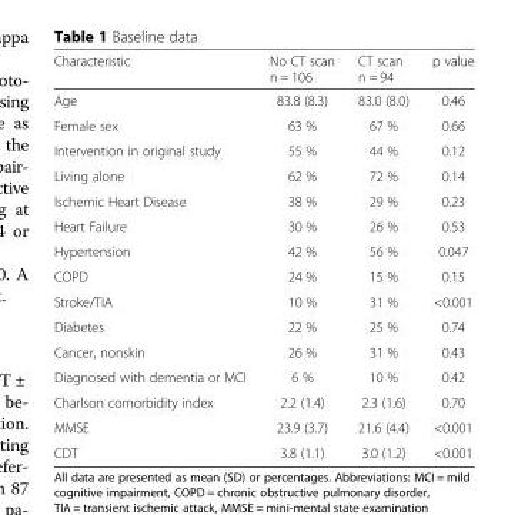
<table><thead><tr><td>Characteristic</td><td>No CT scan n = 106</td><td>CT scan n = 94</td><td>p value</td></tr></thead><tbody><tr><td>Age</td><td>83.8 (8.3)</td><td>83.0 (8.0)</td><td>0.46</td></tr><tr><td>Female sex</td><td>63 %</td><td>67 %</td><td>0.66</td></tr><tr><td>Intervention in original study</td><td>55 %</td><td>44 %</td><td>0.12</td></tr><tr><td>Living alone</td><td>62 %</td><td>72 %</td><td>0.14</td></tr><tr><td>Ischemic Heart Disease</td><td>38 %</td><td>29 %</td><td>0.23</td></tr><tr><td>Heart Failure</td><td>30 %</td><td>26 %</td><td>0.53</td></tr><tr><td>Hypertension</td><td>42 %</td><td>56 %</td><td>0.047</td></tr><tr><td>COPD</td><td>24 %</td><td>15 %</td><td>0.15</td></tr><tr><td>Stroke/TIA</td><td>10 %</td><td>31 %</td><td>&lt;0.001</td></tr><tr><td>Diabetes</td><td>22 %</td><td>25 %</td><td>0.74</td></tr><tr><td>Cancer, nonskin</td><td>26 %</td><td>31 %</td><td>0.43</td></tr><tr><td>Diagnosed with dementia or MCI</td><td>6 %</td><td>10 %</td><td>0.42</td></tr><tr><td>Charlson comorbidity index</td><td>2.2 (1.4)</td><td>2.3 (1.6)</td><td>0.70</td></tr><tr><td>MMSE</td><td>23.9 (3.7)</td><td>21.6 (4.4)</td><td>&lt;0.001</td></tr><tr><td>CDT</td><td>3.8 (1.1)</td><td>3.0 (1.2)</td><td>&lt;0.001</td></tr></tbody></table>